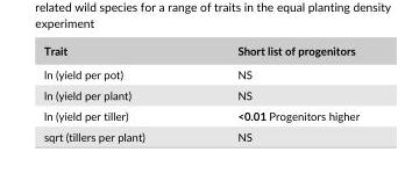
<table><thead><tr><td>Trait</td><td>Short list of progenitors</td></tr></thead><tbody><tr><td>ln (yield per pot)</td><td>NS</td></tr><tr><td>ln (yield per plant)</td><td>NS</td></tr><tr><td>ln (yield per tiller)</td><td>&lt;0.01 Progenitors higher</td></tr><tr><td>sqrt (tillers per plant)</td><td>NS</td></tr></tbody></table>